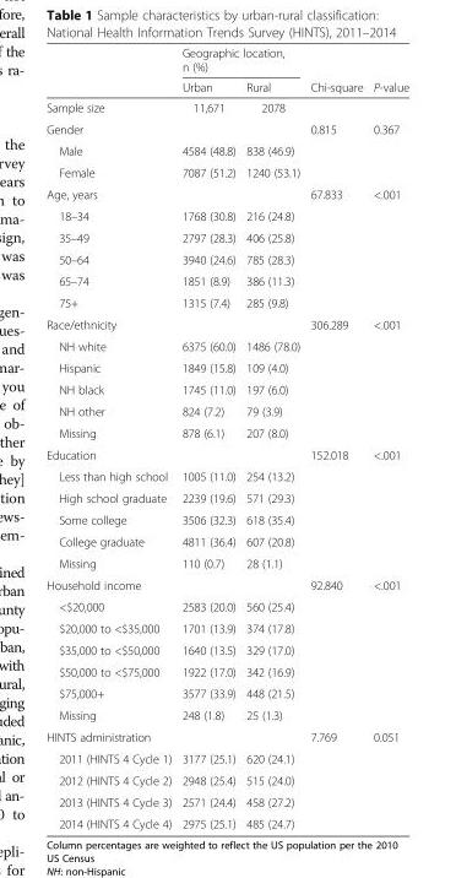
<table><thead><tr><td rowspan="2"></td><td colspan="2">Geographic location, n (%)</td><td rowspan="2">Chi-square</td><td rowspan="2">P-value</td></tr><tr><td>Urban</td><td>Rural</td></tr></thead><tbody><tr><td>Sample size</td><td>11,671</td><td>2078</td><td></td><td></td></tr><tr><td>Gender</td><td></td><td></td><td>0.815</td><td>0.367</td></tr><tr><td>Male</td><td>4584 (48.8)</td><td>838 (46.9)</td><td></td><td></td></tr><tr><td>Female</td><td>7087 (51.2)</td><td>1240 (53.1)</td><td></td><td></td></tr><tr><td>Age, years</td><td></td><td></td><td>67.833</td><td>&lt;.001</td></tr><tr><td>18–34</td><td>1768 (30.8)</td><td>216 (24.8)</td><td></td><td></td></tr><tr><td>35–49</td><td>2797 (28.3)</td><td>406 (25.8)</td><td></td><td></td></tr><tr><td>50–64</td><td>3940 (24.6)</td><td>785 (28.3)</td><td></td><td></td></tr><tr><td>65–74</td><td>1851 (8.9)</td><td>386 (11.3)</td><td></td><td></td></tr><tr><td>75+</td><td>1315 (7.4)</td><td>285 (9.8)</td><td></td><td></td></tr><tr><td>Race/ethnicity</td><td></td><td></td><td>306.289</td><td>&lt;.001</td></tr><tr><td>NH white</td><td>6375 (60.0)</td><td>1486 (78.0)</td><td></td><td></td></tr><tr><td>Hispanic</td><td>1849 (15.8)</td><td>109 (4.0)</td><td></td><td></td></tr><tr><td>NH black</td><td>1745 (11.0)</td><td>197 (6.0)</td><td></td><td></td></tr><tr><td>NH other</td><td>824 (7.2)</td><td>79 (3.9)</td><td></td><td></td></tr><tr><td>Missing</td><td>878 (6.1)</td><td>207 (8.0)</td><td></td><td></td></tr><tr><td>Education</td><td></td><td></td><td>152.018</td><td>&lt;.001</td></tr><tr><td>Less than high school</td><td>1005 (11.0)</td><td>254 (13.2)</td><td></td><td></td></tr><tr><td>High school graduate</td><td>2239 (19.6)</td><td>571 (29.3)</td><td></td><td></td></tr><tr><td>Some college</td><td>3506 (32.3)</td><td>618 (35.4)</td><td></td><td></td></tr><tr><td>College graduate</td><td>4811 (36.4)</td><td>607 (20.8)</td><td></td><td></td></tr><tr><td>Missing</td><td>110 (0.7)</td><td>28 (1.1)</td><td></td><td></td></tr><tr><td>Household income</td><td></td><td></td><td>92.840</td><td>&lt;.001</td></tr><tr><td>&lt;$20,000</td><td>2583 (20.0)</td><td>560 (25.4)</td><td></td><td></td></tr><tr><td>$20,000 to &lt;$35,000</td><td>1701 (13.9)</td><td>374 (17.8)</td><td></td><td></td></tr><tr><td>$35,000 to &lt;$50,000</td><td>1640 (13.5)</td><td>329 (17.0)</td><td></td><td></td></tr><tr><td>$50,000 to &lt;$75,000</td><td>1922 (17.0)</td><td>342 (16.9)</td><td></td><td></td></tr><tr><td>$75,000+</td><td>3577 (33.9)</td><td>448 (21.5)</td><td></td><td></td></tr><tr><td>Missing</td><td>248 (1.8)</td><td>25 (1.3)</td><td></td><td></td></tr><tr><td>HINTS administration</td><td></td><td></td><td>7.769</td><td>0.051</td></tr><tr><td>2011 (HINTS 4 Cycle 1)</td><td>3177 (25.1)</td><td>620 (24.1)</td><td></td><td></td></tr><tr><td>2012 (HINTS 4 Cycle 2)</td><td>2948 (25.4)</td><td>515 (24.0)</td><td></td><td></td></tr><tr><td>2013 (HINTS 4 Cycle 3)</td><td>2571 (24.4)</td><td>458 (27.2)</td><td></td><td></td></tr><tr><td>2014 (HINTS 4 Cycle 4)</td><td>2975 (25.1)</td><td>485 (24.7)</td><td></td><td></td></tr></tbody></table>